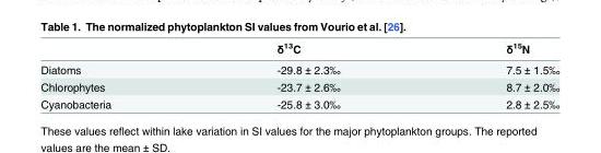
<table><thead><tr><td></td><td>δ<sup>13</sup>C</td><td>δ<sup>15</sup>N</td></tr></thead><tbody><tr><td>Diatoms</td><td>-29.8 ± 2.3‰</td><td>7.5 ± 1.5‰</td></tr><tr><td>Chlorophytes</td><td>-23.7 ± 2.6‰</td><td>8.7 ± 2.0‰</td></tr><tr><td>Cyanobacteria</td><td>-25.8 ± 3.0‰</td><td>2.8 ± 2.5‰</td></tr></tbody></table>